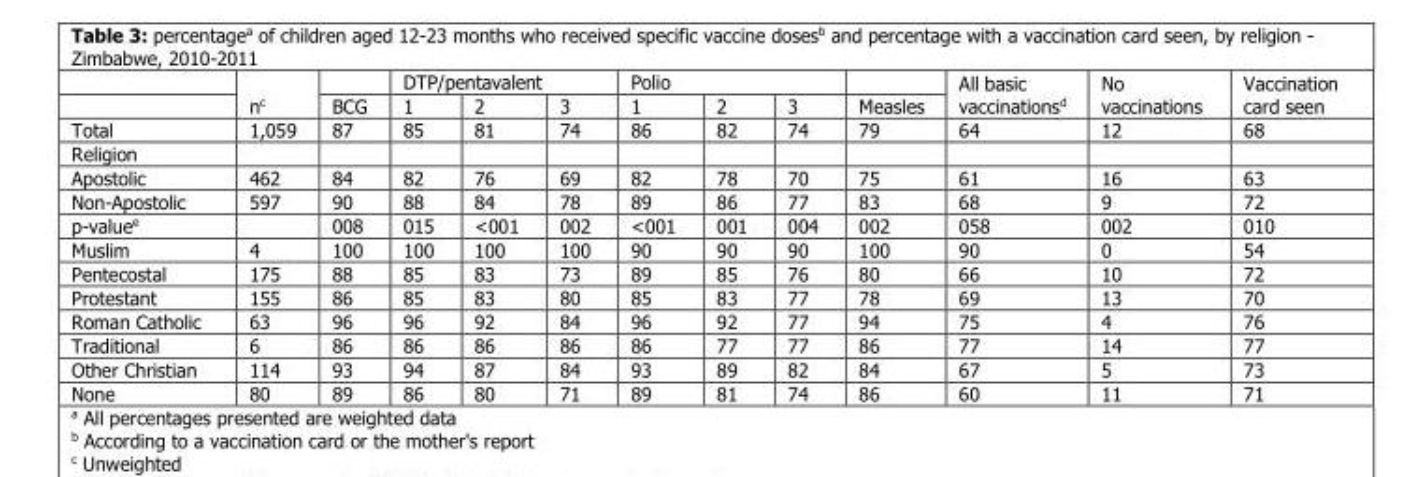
<table><thead><tr><td rowspan="2"></td><td rowspan="2">n<sup>c</sup></td><td rowspan="2">BCG</td><td colspan="3">DTP/pentavalent</td><td colspan="3">Polio</td><td rowspan="2">Measles</td><td rowspan="2">All basic vaccinations<sup>d</sup></td><td rowspan="2">No vaccinations</td><td rowspan="2">Vaccination card seen</td></tr><tr><td>1</td><td>2</td><td>3</td><td>1</td><td>2</td><td>3</td></tr></thead><tbody><tr><td>Total</td><td>1,059</td><td>87</td><td>85</td><td>81</td><td>74</td><td>86</td><td>82</td><td>74</td><td>79</td><td>64</td><td>12</td><td>68</td></tr><tr><td colspan="13">Religion</td></tr><tr><td>Apostolic</td><td>462</td><td>84</td><td>82</td><td>76</td><td>69</td><td>82</td><td>78</td><td>70</td><td>75</td><td>61</td><td>16</td><td>63</td></tr><tr><td>Non-Apostolic</td><td>597</td><td>90</td><td>88</td><td>84</td><td>78</td><td>89</td><td>86</td><td>77</td><td>83</td><td>68</td><td>9</td><td>72</td></tr><tr><td>p-value<sup>e</sup></td><td></td><td>008</td><td>015</td><td>&lt;001</td><td>002</td><td>&lt;001</td><td>001</td><td>004</td><td>002</td><td>058</td><td>002</td><td>010</td></tr><tr><td>Muslim</td><td>4</td><td>100</td><td>100</td><td>100</td><td>100</td><td>90</td><td>90</td><td>90</td><td>100</td><td>90</td><td>0</td><td>54</td></tr><tr><td>Pentecostal</td><td>175</td><td>88</td><td>85</td><td>83</td><td>73</td><td>89</td><td>85</td><td>76</td><td>80</td><td>66</td><td>10</td><td>72</td></tr><tr><td>Protestant</td><td>155</td><td>86</td><td>85</td><td>83</td><td>80</td><td>85</td><td>83</td><td>77</td><td>78</td><td>69</td><td>13</td><td>70</td></tr><tr><td>Roman Catholic</td><td>63</td><td>96</td><td>96</td><td>92</td><td>84</td><td>96</td><td>92</td><td>77</td><td>94</td><td>75</td><td>4</td><td>76</td></tr><tr><td>Traditional</td><td>6</td><td>86</td><td>86</td><td>86</td><td>86</td><td>86</td><td>77</td><td>77</td><td>86</td><td>77</td><td>14</td><td>77</td></tr><tr><td>Other Christian</td><td>114</td><td>93</td><td>94</td><td>87</td><td>84</td><td>93</td><td>89</td><td>82</td><td>84</td><td>67</td><td>5</td><td>73</td></tr><tr><td>None</td><td>80</td><td>89</td><td>86</td><td>80</td><td>71</td><td>89</td><td>81</td><td>74</td><td>86</td><td>60</td><td>11</td><td>71</td></tr></tbody></table>